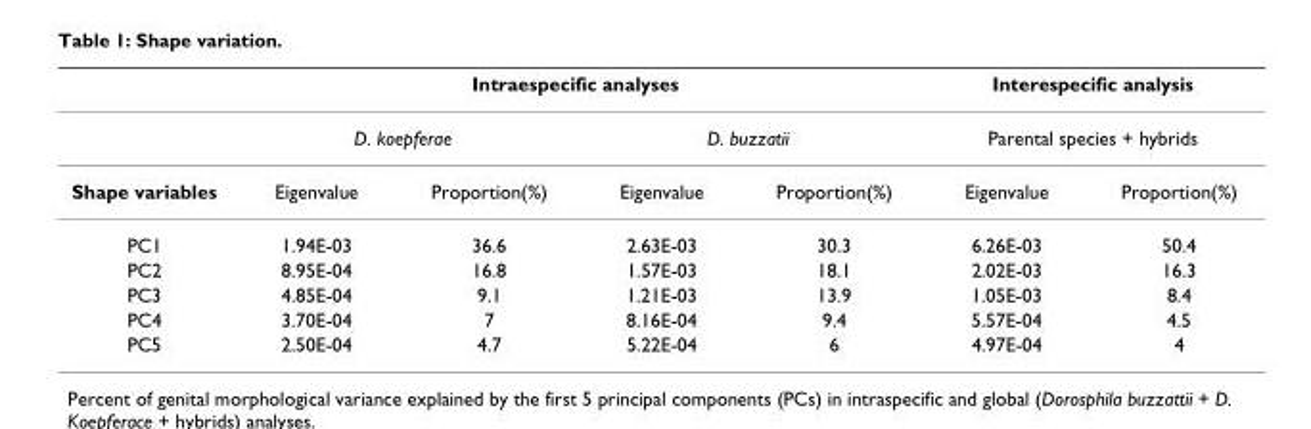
<table><thead><tr><td rowspan="3">Shape variables</td><td colspan="4">Intraespecific analyses</td><td rowspan="2" colspan="2">Interespecific analysis Parental species + hybrids</td></tr><tr><td colspan="2">D. koepferae</td><td colspan="2">D. buzzatii</td></tr><tr><td>Eigenvalue</td><td>Proportion(%)</td><td>Eigenvalue</td><td>Proportion(%)</td><td>Eigenvalue</td><td>Proportion(%)</td></tr></thead><tbody><tr><td>PC1</td><td>1.94E-03</td><td>36.6</td><td>2.63E-03</td><td>30.3</td><td>6.26E-03</td><td>50.4</td></tr><tr><td>PC2</td><td>8.95E-04</td><td>16.8</td><td>1.57E-03</td><td>18.1</td><td>2.02E-03</td><td>16.3</td></tr><tr><td>PC3</td><td>4.85E-04</td><td>9.1</td><td>1.21E-03</td><td>13.9</td><td>1.05E-03</td><td>8.4</td></tr><tr><td>PC4</td><td>3.70E-04</td><td>7</td><td>8.16E-04</td><td>9.4</td><td>5.57E-04</td><td>4.5</td></tr><tr><td>PC5</td><td>2.50E-04</td><td>4.7</td><td>5.22E-04</td><td>6</td><td>4.97E-04</td><td>4</td></tr></tbody></table>